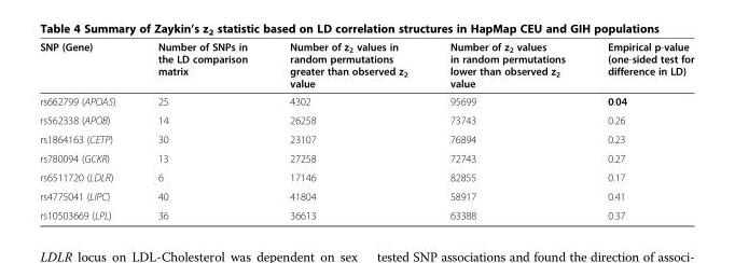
<table><thead><tr><td>SNP (Gene)</td><td>Number of SNPs in the LD comparison matrix</td><td>Number of z<sub>2</sub> values in random permutations greater than observed z<sub>2</sub> value</td><td>Number of z<sub>2</sub> values in random permutations lower than observed z<sub>2</sub> value</td><td>Empirical p-value (one-sided test for difference in LD)</td></tr></thead><tbody><tr><td>rs662799 (APOA5)</td><td>25</td><td>4302</td><td>95699</td><td>0.04</td></tr><tr><td>rs562338 (APOB)</td><td>14</td><td>26258</td><td>73743</td><td>0.26</td></tr><tr><td>rs1864163 (CETP)</td><td>30</td><td>23107</td><td>76894</td><td>0.23</td></tr><tr><td>rs780094 (GCKR)</td><td>13</td><td>27258</td><td>72743</td><td>0.27</td></tr><tr><td>rs6511720 (LDLR)</td><td>6</td><td>17146</td><td>82855</td><td>0.17</td></tr><tr><td>rs4775041 (LIPC)</td><td>40</td><td>41804</td><td>58917</td><td>0.41</td></tr><tr><td>rs10503669 (LPL)</td><td>36</td><td>36613</td><td>63388</td><td>0.37</td></tr></tbody></table>